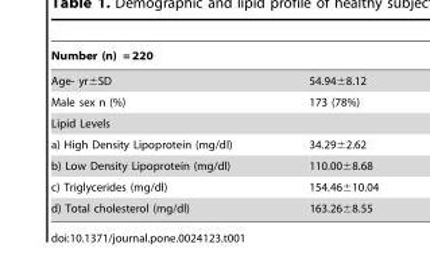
<table><thead><tr><td colspan="2">Number (n) = 220</td></tr><tr><td>Age- yr±SD</td><td>54.94±8.12</td></tr></thead><tbody><tr><td>Male sex n (%)</td><td>173 (78%)</td></tr><tr><td colspan="2">Lipid Levels</td></tr><tr><td>a) High Density Lipoprotein (mg/dl)</td><td>34.29±2.62</td></tr><tr><td>b) Low Density Lipoprotein (mg/dl)</td><td>110.00±8.68</td></tr><tr><td>c) Triglycerides (mg/dl)</td><td>154.46±10.04</td></tr><tr><td>d) Total cholesterol (mg/dl)</td><td>163.26±8.55</td></tr></tbody></table>